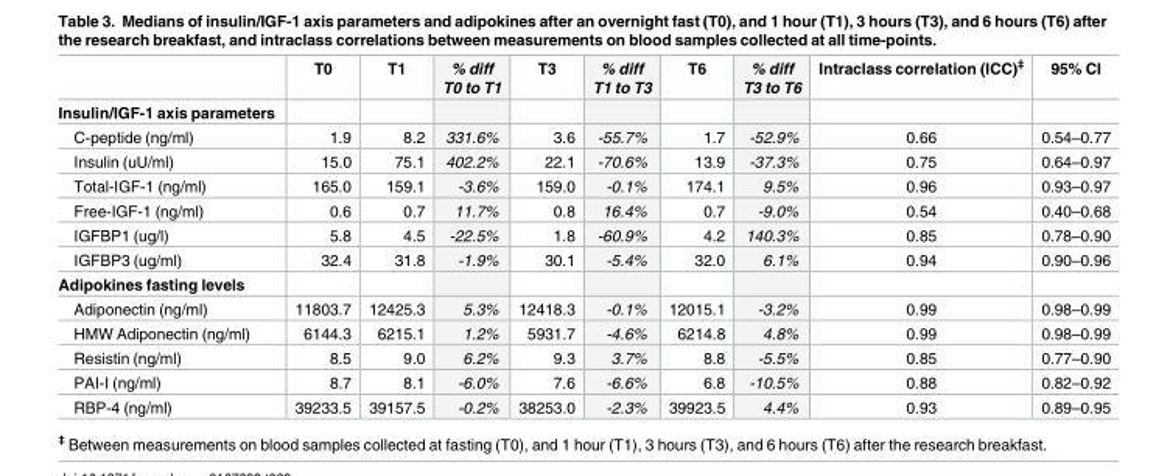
<table><thead><tr><td></td><td>T0</td><td>T1</td><td>% diff T0 to T1</td><td>T3</td><td>% diff T1 to T3</td><td>T6</td><td>% diff T3 to T6</td><td>Intraclass correlation (ICC)<sup>‡</sup></td><td>95% CI</td></tr></thead><tbody><tr><td colspan="10">Insulin/IGF-1 axis parameters</td></tr><tr><td>C-peptide (ng/ml)</td><td>1.9</td><td>8.2</td><td>331.6%</td><td>3.6</td><td>-55.7%</td><td>1.7</td><td>-52.9%</td><td>0.66</td><td>0.54–0.77</td></tr><tr><td>Insulin (uU/ml)</td><td>15.0</td><td>75.1</td><td>402.2%</td><td>22.1</td><td>-70.6%</td><td>13.9</td><td>-37.3%</td><td>0.75</td><td>0.64–0.97</td></tr><tr><td>Total-IGF-1 (ng/ml)</td><td>165.0</td><td>159.1</td><td>-3.6%</td><td>159.0</td><td>-0.1%</td><td>174.1</td><td>9.5%</td><td>0.96</td><td>0.93–0.97</td></tr><tr><td>Free-IGF-1 (ng/ml)</td><td>0.6</td><td>0.7</td><td>11.7%</td><td>0.8</td><td>16.4%</td><td>0.7</td><td>-9.0%</td><td>0.54</td><td>0.40–0.68</td></tr><tr><td>IGFBP1 (ug/l)</td><td>5.8</td><td>4.5</td><td>-22.5%</td><td>1.8</td><td>-60.9%</td><td>4.2</td><td>140.3%</td><td>0.85</td><td>0.78–0.90</td></tr><tr><td>IGFBP3 (ug/ml)</td><td>32.4</td><td>31.8</td><td>-1.9%</td><td>30.1</td><td>-5.4%</td><td>32.0</td><td>6.1%</td><td>0.94</td><td>0.90–0.96</td></tr><tr><td colspan="10">Adipokines fasting levels</td></tr><tr><td>Adiponectin (ng/ml)</td><td>11803.7</td><td>12425.3</td><td>5.3%</td><td>12418.3</td><td>-0.1%</td><td>12015.1</td><td>-3.2%</td><td>0.99</td><td>0.98–0.99</td></tr><tr><td>HMW Adiponectin (ng/ml)</td><td>6144.3</td><td>6215.1</td><td>1.2%</td><td>5931.7</td><td>-4.6%</td><td>6214.8</td><td>4.8%</td><td>0.99</td><td>0.98–0.99</td></tr><tr><td>Resistin (ng/ml)</td><td>8.5</td><td>9.0</td><td>6.2%</td><td>9.3</td><td>3.7%</td><td>8.8</td><td>-5.5%</td><td>0.85</td><td>0.77–0.90</td></tr><tr><td>PAI-I (ng/ml)</td><td>8.7</td><td>8.1</td><td>-6.0%</td><td>7.6</td><td>-6.6%</td><td>6.8</td><td>-10.5%</td><td>0.88</td><td>0.82–0.92</td></tr><tr><td>RBP-4 (ng/ml)</td><td>39233.5</td><td>39157.5</td><td>-0.2%</td><td>38253.0</td><td>-2.3%</td><td>39923.5</td><td>4.4%</td><td>0.93</td><td>0.89–0.95</td></tr></tbody></table>